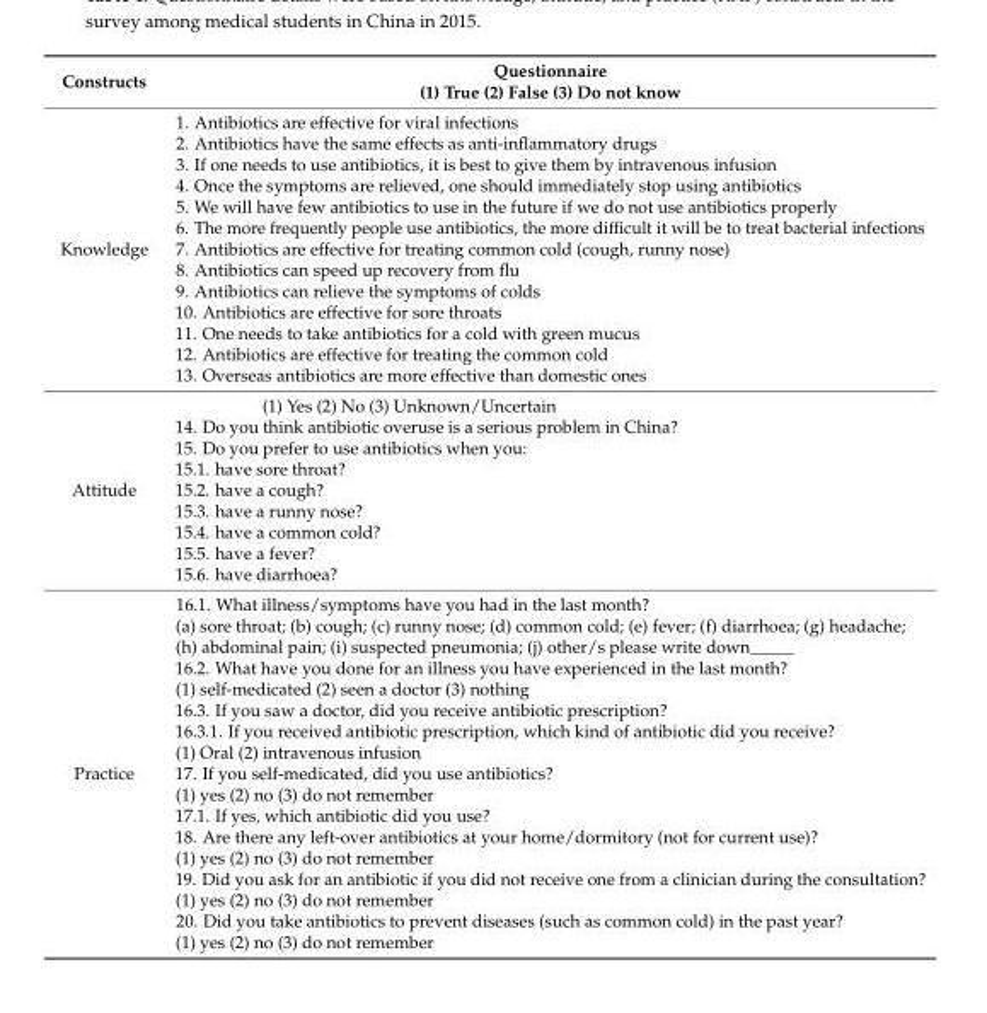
<table><thead><tr><td>Constructs</td><td>Questionnaire (1) True (2) False (3) Do not know</td></tr></thead><tbody><tr><td>Knowledge</td><td>1. Antibiotics are effective for viral infections 2. Antibiotics have the same effects as anti-inflammatory drugs 3. If one needs to use antibiotics, it is best to give them by intravenous infusion 4. Once the symptoms are relieved, one should immediately stop using antibiotics 5. We will have few antibiotics to use in the future if we do not use antibiotics properly 6. The more frequently people use antibiotics, the more difficult it will be to treat bacterial infections 7. Antibiotics are effective for treating common cold (cough, runny nose) 8. Antibiotics can speed up recovery from flu 9. Antibiotics can relieve the symptoms of colds 10. Antibiotics are effective for sore throats 11. One needs to take antibiotics for a cold with green mucus 12. Antibiotics are effective for treating the common cold 13. Overseas antibiotics are more effective than domestic ones</td></tr><tr><td>Attitude</td><td>(1) Yes (2) No (3) Unknown/Uncertain 14. Do you think antibiotic overuse is a serious problem in China? 15. Do you prefer to use antibiotics when you: 15.1. have sore throat? 15.2. have a cough? 15.3. have a runny nose? 15.4. have a common cold? 15.5. have a fever? 15.6. have diarrhoea?</td></tr><tr><td>Practice</td><td>16.1. What illness/symptoms have you had in the last month? (a) sore throat; (b) cough; (c) runny nose; (d) common cold; (e) fever; (f) diarrhoea; (g) headache; (h) abdominal pain; (i) suspected pneumonia; (j) other/s please write down_____ 16.2. What have you done for an illness you have experienced in the last month? (1) self-medicated (2) seen a doctor (3) nothing 16.3. If you saw a doctor, did you receive antibiotic prescription? 16.3.1. If you received antibiotic prescription, which kind of antibiotic did you receive? (1) Oral (2) intravenous infusion 17. If you self-medicated, did you use antibiotics? (1) yes (2) no (3) do not remember 17.1. If yes, which antibiotic did you use? 18. Are there any left-over antibiotics at your home/dormitory (not for current use)? (1) yes (2) no (3) do not remember 19. Did you ask for an antibiotic if you did not receive one from a clinician during the consultation? (1) yes (2) no (3) do not remember 20. Did you take antibiotics to prevent diseases (such as common cold) in the past year? (1) yes (2) no (3) do not remember</td></tr></tbody></table>